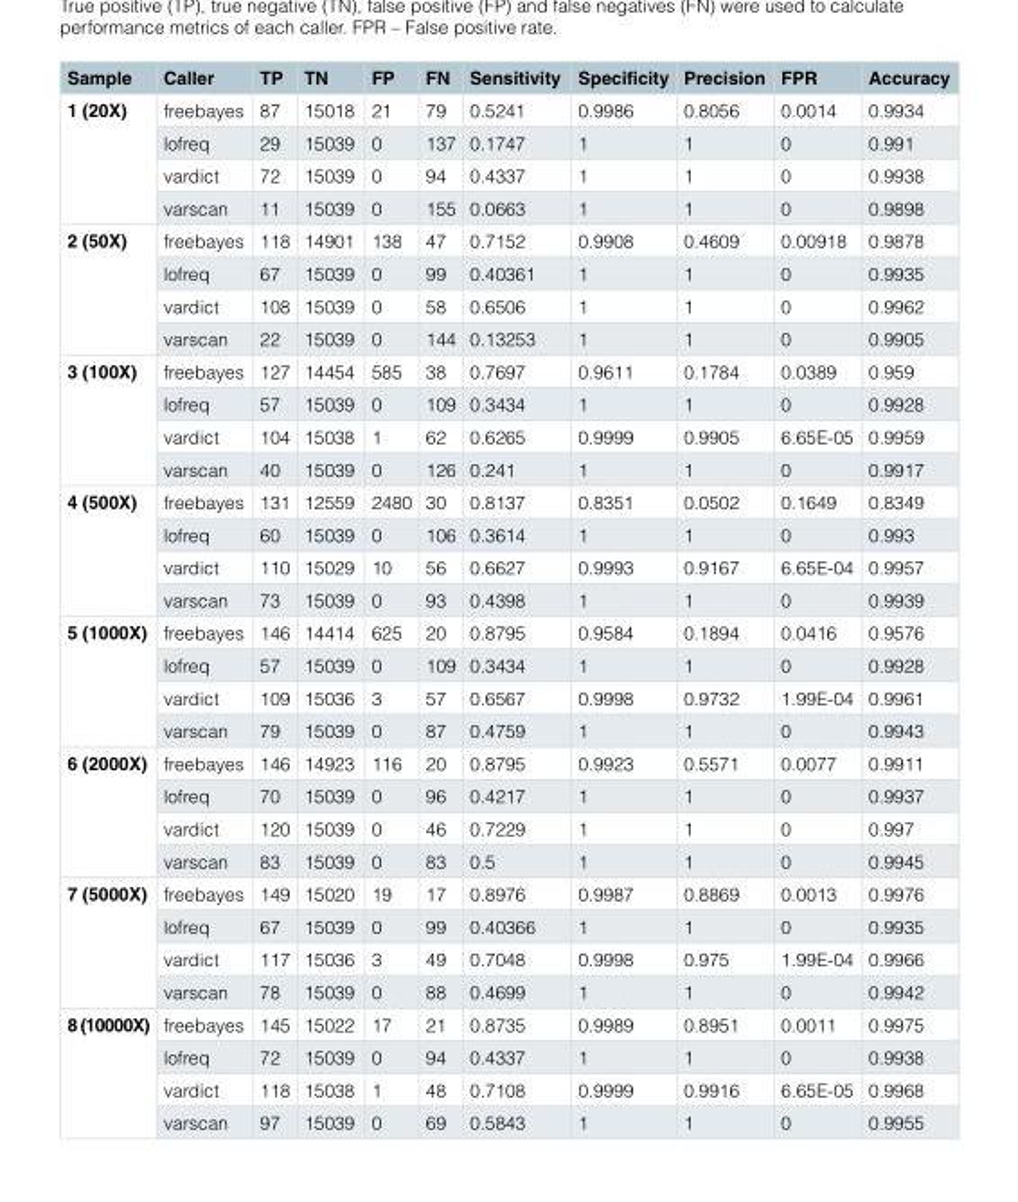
<table><thead><tr><td>Sample</td><td>Caller</td><td>TP</td><td>TN</td><td>FP</td><td>FN</td><td>Sensitivity</td><td>Specificity</td><td>Precision</td><td>FPR</td><td>Accuracy</td></tr></thead><tbody><tr><td rowspan="4">1 (20X)</td><td>freebayes</td><td>87</td><td>15018</td><td>21</td><td>79</td><td>0.5241</td><td>0.9986</td><td>0.8056</td><td>0.0014</td><td>0.9934</td></tr><tr><td>lofreq</td><td>29</td><td>15039</td><td>0</td><td>137</td><td>0.1747</td><td>1</td><td>1</td><td>0</td><td>0.991</td></tr><tr><td>vardict</td><td>72</td><td>15039</td><td>0</td><td>94</td><td>0.4337</td><td>1</td><td>1</td><td>0</td><td>0.9938</td></tr><tr><td>varscan</td><td>11</td><td>15039</td><td>0</td><td>155</td><td>0.0663</td><td>1</td><td>1</td><td>0</td><td>0.9898</td></tr><tr><td rowspan="4">2 (50X)</td><td>freebayes</td><td>118</td><td>14901</td><td>138</td><td>47</td><td>0.7152</td><td>0.9908</td><td>0.4609</td><td>0.00918</td><td>0.9878</td></tr><tr><td>lofreq</td><td>67</td><td>15039</td><td>0</td><td>99</td><td>0.40361</td><td>1</td><td>1</td><td>0</td><td>0.9935</td></tr><tr><td>vardict</td><td>108</td><td>15039</td><td>0</td><td>58</td><td>0.6506</td><td>1</td><td>1</td><td>0</td><td>0.9962</td></tr><tr><td>varscan</td><td>22</td><td>15039</td><td>0</td><td>144</td><td>0.13253</td><td>1</td><td>1</td><td>0</td><td>0.9905</td></tr><tr><td rowspan="4">3 (100X)</td><td>freebayes</td><td>127</td><td>14454</td><td>585</td><td>38</td><td>0.7697</td><td>0.9611</td><td>0.1784</td><td>0.0389</td><td>0.959</td></tr><tr><td>lofreq</td><td>57</td><td>15039</td><td>0</td><td>109</td><td>0.3434</td><td>1</td><td>1</td><td>0</td><td>0.9928</td></tr><tr><td>vardict</td><td>104</td><td>15038</td><td>1</td><td>62</td><td>0.6265</td><td>0.9999</td><td>0.9905</td><td>6.65E-05</td><td>0.9959</td></tr><tr><td>varscan</td><td>40</td><td>15039</td><td>0</td><td>126</td><td>0.241</td><td>1</td><td>1</td><td>0</td><td>0.9917</td></tr><tr><td rowspan="4">4 (500X)</td><td>freebayes</td><td>131</td><td>12559</td><td>2480</td><td>30</td><td>0.8137</td><td>0.8351</td><td>0.0502</td><td>0.1649</td><td>0.8349</td></tr><tr><td>lofreq</td><td>60</td><td>15039</td><td>0</td><td>106</td><td>0.3614</td><td>1</td><td>1</td><td>0</td><td>0.993</td></tr><tr><td>vardict</td><td>110</td><td>15029</td><td>10</td><td>56</td><td>0.6627</td><td>0.9993</td><td>0.9167</td><td>6.65E-04</td><td>0.9957</td></tr><tr><td>varscan</td><td>73</td><td>15039</td><td>0</td><td>93</td><td>0.4398</td><td>1</td><td>1</td><td>0</td><td>0.9939</td></tr><tr><td rowspan="4">5 (1000X)</td><td>freebayes</td><td>146</td><td>14414</td><td>625</td><td>20</td><td>0.8795</td><td>0.9584</td><td>0.1894</td><td>0.0416</td><td>0.9576</td></tr><tr><td>lofreq</td><td>57</td><td>15039</td><td>0</td><td>109</td><td>0.3434</td><td>1</td><td>1</td><td>0</td><td>0.9928</td></tr><tr><td>vardict</td><td>109</td><td>15036</td><td>3</td><td>57</td><td>0.6567</td><td>0.9998</td><td>0.9732</td><td>1.99E-04</td><td>0.9961</td></tr><tr><td>varscan</td><td>79</td><td>15039</td><td>0</td><td>87</td><td>0.4759</td><td>1</td><td>1</td><td>0</td><td>0.9943</td></tr><tr><td rowspan="4">6 (2000X)</td><td>freebayes</td><td>146</td><td>14923</td><td>116</td><td>20</td><td>0.8795</td><td>0.9923</td><td>0.5571</td><td>0.0077</td><td>0.9911</td></tr><tr><td>lofreq</td><td>70</td><td>15039</td><td>0</td><td>96</td><td>0.4217</td><td>1</td><td>1</td><td>0</td><td>0.9937</td></tr><tr><td>vardict</td><td>120</td><td>15039</td><td>0</td><td>46</td><td>0.7229</td><td>1</td><td>1</td><td>0</td><td>0.997</td></tr><tr><td>varscan</td><td>83</td><td>15039</td><td>0</td><td>83</td><td>0.5</td><td>1</td><td>1</td><td>0</td><td>0.9945</td></tr><tr><td rowspan="4">7 (5000X)</td><td>freebayes</td><td>149</td><td>15020</td><td>19</td><td>17</td><td>0.8976</td><td>0.9987</td><td>0.8869</td><td>0.0013</td><td>0.9976</td></tr><tr><td>lofreq</td><td>67</td><td>15039</td><td>0</td><td>99</td><td>0.40366</td><td>1</td><td>1</td><td>0</td><td>0.9935</td></tr><tr><td>vardict</td><td>117</td><td>15036</td><td>3</td><td>49</td><td>0.7048</td><td>0.9998</td><td>0.975</td><td>1.99E-04</td><td>0.9966</td></tr><tr><td>varscan</td><td>78</td><td>15039</td><td>0</td><td>88</td><td>0.4699</td><td>1</td><td>1</td><td>0</td><td>0.9942</td></tr><tr><td rowspan="4">8 (10000X)</td><td>freebayes</td><td>145</td><td>15022</td><td>17</td><td>21</td><td>0.8735</td><td>0.9989</td><td>0.8951</td><td>0.0011</td><td>0.9975</td></tr><tr><td>lofreq</td><td>72</td><td>15039</td><td>0</td><td>94</td><td>0.4337</td><td>1</td><td>1</td><td>0</td><td>0.9938</td></tr><tr><td>vardict</td><td>118</td><td>15038</td><td>1</td><td>48</td><td>0.7108</td><td>0.9999</td><td>0.9916</td><td>6.65E-05</td><td>0.9968</td></tr><tr><td>varscan</td><td>97</td><td>15039</td><td>0</td><td>69</td><td>0.5843</td><td>1</td><td>1</td><td>0</td><td>0.9955</td></tr></tbody></table>